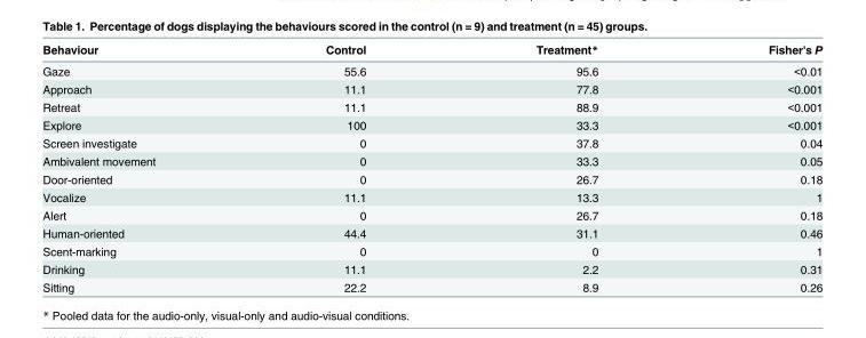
<table><thead><tr><td>Behaviour</td><td>Control</td><td>Treatment*</td><td>Fisher&#x27;s P</td></tr></thead><tbody><tr><td>Gaze</td><td>55.6</td><td>95.6</td><td>&lt;0.01</td></tr><tr><td>Approach</td><td>11.1</td><td>77.8</td><td>&lt;0.001</td></tr><tr><td>Retreat</td><td>11.1</td><td>88.9</td><td>&lt;0.001</td></tr><tr><td>Explore</td><td>100</td><td>33.3</td><td>&lt;0.001</td></tr><tr><td>Screen investigate</td><td>0</td><td>37.8</td><td>0.04</td></tr><tr><td>Ambivalent movement</td><td>0</td><td>33.3</td><td>0.05</td></tr><tr><td>Door-oriented</td><td>0</td><td>26.7</td><td>0.18</td></tr><tr><td>Vocalize</td><td>11.1</td><td>13.3</td><td>1</td></tr><tr><td>Alert</td><td>0</td><td>26.7</td><td>0.18</td></tr><tr><td>Human-oriented</td><td>44.4</td><td>31.1</td><td>0.46</td></tr><tr><td>Scent-marking</td><td>0</td><td>0</td><td>1</td></tr><tr><td>Drinking</td><td>11.1</td><td>2.2</td><td>0.31</td></tr><tr><td>Sitting</td><td>22.2</td><td>8.9</td><td>0.26</td></tr></tbody></table>